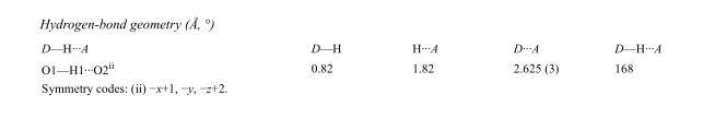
<table><tbody><tr><td>D—H···A</td><td>D—H</td><td>H···A</td><td>D···A</td><td>D—H···A</td></tr><tr><td>O1—H1···O2<sup>ii</sup></td><td>0.82</td><td>1.82</td><td>2.625 (3)</td><td>168</td></tr></tbody></table>